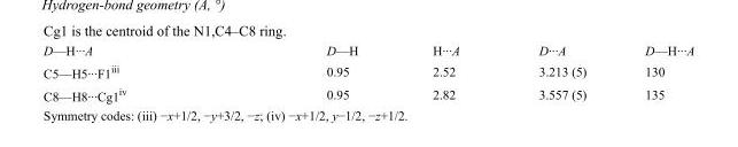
<table><tbody><tr><td>D—H···A</td><td>D—H</td><td>H···A</td><td>D···A</td><td>D—H···A</td></tr><tr><td>C5—H5···F1<sup>iii</sup></td><td>0.95</td><td>2.52</td><td>3.213 (5)</td><td>130</td></tr><tr><td>C8—H8···Cg1<sup>iv</sup></td><td>0.95</td><td>2.82</td><td>3.557 (5)</td><td>135</td></tr></tbody></table>